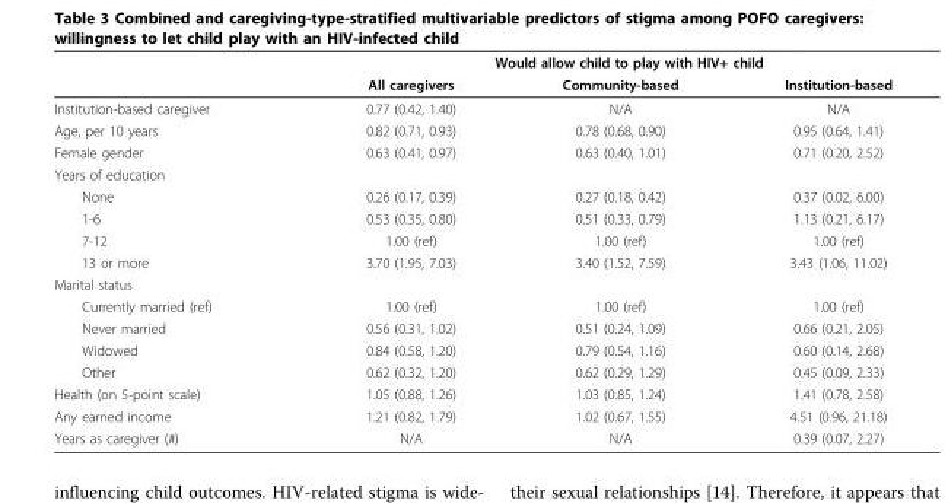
<table><thead><tr><td rowspan="2"></td><td colspan="3">Would allow child to play with HIV+ child</td></tr><tr><td>All caregivers</td><td>Community-based</td><td>Institution-based</td></tr></thead><tbody><tr><td>Institution-based caregiver</td><td>0.77 (0.42, 1.40)</td><td>N/A</td><td>N/A</td></tr><tr><td>Age, per 10 years</td><td>0.82 (0.71, 0.93)</td><td>0.78 (0.68, 0.90)</td><td>0.95 (0.64, 1.41)</td></tr><tr><td>Female gender</td><td>0.63 (0.41, 0.97)</td><td>0.63 (0.40, 1.01)</td><td>0.71 (0.20, 2.52)</td></tr><tr><td colspan="4">Years of education</td></tr><tr><td>None</td><td>0.26 (0.17, 0.39)</td><td>0.27 (0.18, 0.42)</td><td>0.37 (0.02, 6.00)</td></tr><tr><td>1-6</td><td>0.53 (0.35, 0.80)</td><td>0.51 (0.33, 0.79)</td><td>1.13 (0.21, 6.17)</td></tr><tr><td>7-12</td><td>1.00 (ref)</td><td>1.00 (ref)</td><td>1.00 (ref)</td></tr><tr><td>13 or more</td><td>3.70 (1.95, 7.03)</td><td>3.40 (1.52, 7.59)</td><td>3.43 (1.06, 11.02)</td></tr><tr><td colspan="4">Marital status</td></tr><tr><td>Currently married (ref)</td><td>1.00 (ref)</td><td>1.00 (ref)</td><td>1.00 (ref)</td></tr><tr><td>Never married</td><td>0.56 (0.31, 1.02)</td><td>0.51 (0.24, 1.09)</td><td>0.66 (0.21, 2.05)</td></tr><tr><td>Widowed</td><td>0.84 (0.58, 1.20)</td><td>0.79 (0.54, 1.16)</td><td>0.60 (0.14, 2.68)</td></tr><tr><td>Other</td><td>0.62 (0.32, 1.20)</td><td>0.62 (0.29, 1.29)</td><td>0.45 (0.09, 2.33)</td></tr><tr><td>Health (on 5-point scale)</td><td>1.05 (0.88, 1.26)</td><td>1.03 (0.85, 1.24)</td><td>1.41 (0.78, 2.58)</td></tr><tr><td>Any earned income</td><td>1.21 (0.82, 1.79)</td><td>1.02 (0.67, 1.55)</td><td>4.51 (0.96, 21.18)</td></tr><tr><td>Years as caregiver (#)</td><td>N/A</td><td>N/A</td><td>0.39 (0.07, 2.27)</td></tr></tbody></table>